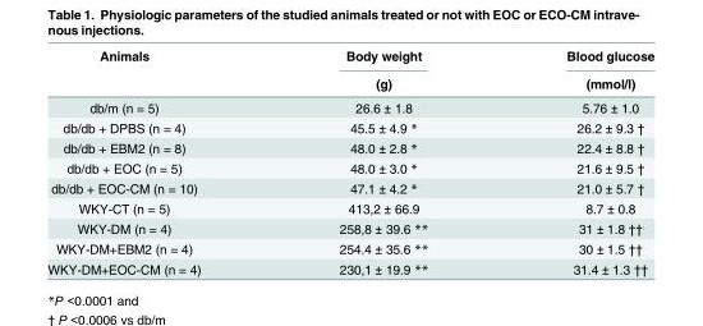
<table><thead><tr><td rowspan="2">Animals</td><td rowspan="2">Body weight (g)</td><td rowspan="2">Blood glucose (mmol/l)</td></tr><tr></tr></thead><tbody><tr><td>db/m (n = 5)</td><td>26.6 ± 1.8</td><td>5.76 ± 1.0</td></tr><tr><td>db/db + DPBS (n = 4)</td><td>45.5 ± 4.9 *</td><td>26.2 ± 9.3 †</td></tr><tr><td>db/db + EBM2 (n = 8)</td><td>48.0 ± 2.8 *</td><td>22.4 ± 8.8 †</td></tr><tr><td>db/db + EOC (n = 5)</td><td>48.0 ± 3.0 *</td><td>21.6 ± 9.5 †</td></tr><tr><td>db/db + EOC-CM (n = 10)</td><td>47.1 ± 4.2 *</td><td>21.0 ± 5.7 †</td></tr><tr><td>WKY-CT (n = 5)</td><td>413,2 ± 66.9</td><td>8.7 ± 0.8</td></tr><tr><td>WKY-DM (n = 4)</td><td>258,8 ± 39.6 **</td><td>31 ± 1.8 ††</td></tr><tr><td>WKY-DM+EBM2 (n = 4)</td><td>254.4 ± 35.6 **</td><td>30 ± 1.5 ††</td></tr><tr><td>WKY-DM+EOC-CM (n = 4)</td><td>230,1 ± 19.9 **</td><td>31.4 ± 1.3 ††</td></tr></tbody></table>